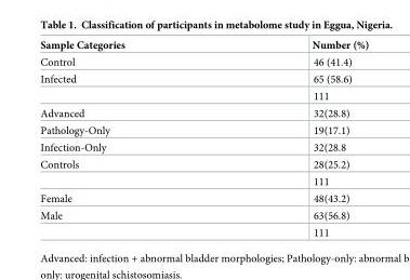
<table><thead><tr><td>Sample Categories</td><td>Number (%)</td></tr></thead><tbody><tr><td>Control</td><td>46 (41.4)</td></tr><tr><td rowspan="2">Infected</td><td>65 (58.6)</td></tr><tr><td>111</td></tr><tr><td>Advanced</td><td>32(28.8)</td></tr><tr><td>Pathology-Only</td><td>19(17.1)</td></tr><tr><td>Infection-Only</td><td>32(28.8</td></tr><tr><td rowspan="2">Controls</td><td>28(25.2)</td></tr><tr><td>111</td></tr><tr><td>Female</td><td>48(43.2)</td></tr><tr><td rowspan="2">Male</td><td>63(56.8)</td></tr><tr><td>111</td></tr></tbody></table>